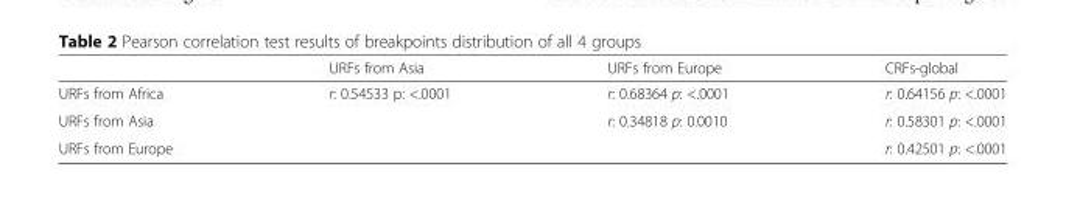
<table><thead><tr><td></td><td>URFs from Asia</td><td>URFs from Europe</td><td>CRFs-global</td></tr></thead><tbody><tr><td>URFs from Africa</td><td>r: 0.54533 p: &lt;.0001</td><td>r: 0.68364 p: &lt;.0001</td><td>r: 0.64156 p: &lt;.0001</td></tr><tr><td>URFs from Asia</td><td></td><td>r: 0.34818 p: 0.0010</td><td>r: 0.58301 p: &lt;.0001</td></tr><tr><td>URFs from Europe</td><td></td><td></td><td>r: 0.42501 p: &lt;.0001</td></tr></tbody></table>